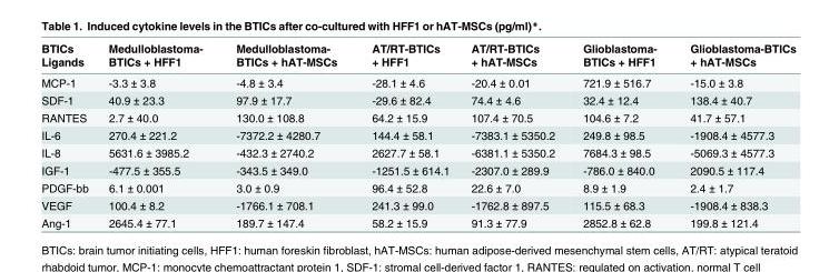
<table><thead><tr><td>BTICs Ligands</td><td>Medulloblastoma- BTICs + HFF1</td><td>Medulloblastoma- BTICs + hAT-MSCs</td><td>AT/RT-BTICs + HFF1</td><td>AT/RT-BTICs + hAT-MSCs</td><td>Glioblastoma- BTICs + HFF1</td><td>Glioblastoma-BTICs + hAT-MSCs</td></tr></thead><tbody><tr><td>MCP-1</td><td>-3.3 ± 3.8</td><td>-4.8 ± 3.4</td><td>-28.1 ± 4.6</td><td>-20.4 ± 0.01</td><td>721.9 ± 516.7</td><td>-15.0 ± 3.8</td></tr><tr><td>SDF-1</td><td>40.9 ± 23.3</td><td>97.9 ± 17.7</td><td>-29.6 ± 82.4</td><td>74.4 ± 4.6</td><td>32.4 ± 12.4</td><td>138.4 ± 40.7</td></tr><tr><td>RANTES</td><td>2.7 ± 40.0</td><td>130.0 ± 108.8</td><td>64.2 ± 15.9</td><td>107.4 ± 70.5</td><td>104.6 ± 7.2</td><td>41.7 ± 57.1</td></tr><tr><td>IL-6</td><td>270.4 ± 221.2</td><td>-7372.2 ± 4280.7</td><td>144.4 ± 58.1</td><td>-7383.1 ± 5350.2</td><td>249.8 ± 98.5</td><td>-1908.4 ± 4577.3</td></tr><tr><td>IL-8</td><td>5631.6 ± 3985.2</td><td>-432.3 ± 2740.2</td><td>2627.7 ± 58.1</td><td>-6381.1 ± 5350.2</td><td>7684.3 ± 98.5</td><td>-5069.3 ± 4577.3</td></tr><tr><td>IGF-1</td><td>-477.5 ± 355.5</td><td>-343.5 ± 349.0</td><td>-1251.5 ± 614.1</td><td>-2307.0 ± 289.9</td><td>-786.0 ± 840.0</td><td>2090.5 ± 117.4</td></tr><tr><td>PDGF-bb</td><td>6.1 ± 0.001</td><td>3.0 ± 0.9</td><td>96.4 ± 52.8</td><td>22.6 ± 7.0</td><td>8.9 ± 1.9</td><td>2.4 ± 1.7</td></tr><tr><td>VEGF</td><td>100.4 ± 8.2</td><td>-1766.1 ± 708.1</td><td>241.3 ± 99.0</td><td>-1762.8 ± 897.5</td><td>115.5 ± 68.3</td><td>-1908.4 ± 838.3</td></tr><tr><td>Ang-1</td><td>2645.4 ± 77.1</td><td>189.7 ± 147.4</td><td>58.2 ± 15.9</td><td>91.3 ± 77.9</td><td>2852.8 ± 62.8</td><td>199.8 ± 121.4</td></tr></tbody></table>